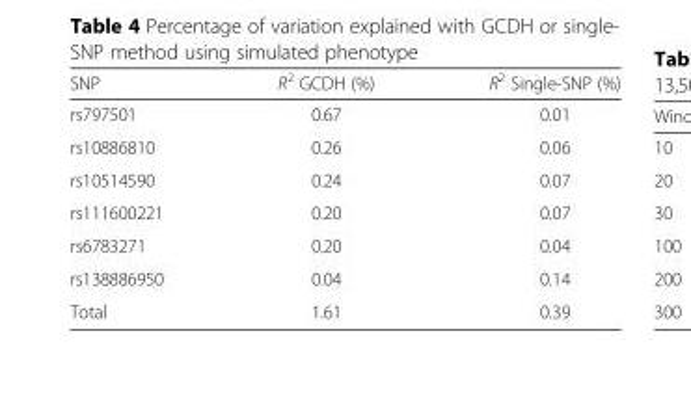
<table><thead><tr><td>SNP</td><td>R<sup>2</sup> GCDH (%)</td><td>R<sup>2</sup> Single-SNP (%)</td></tr></thead><tbody><tr><td>rs797501</td><td>0.67</td><td>0.01</td></tr><tr><td>rs10886810</td><td>0.26</td><td>0.06</td></tr><tr><td>rs10514590</td><td>0.24</td><td>0.07</td></tr><tr><td>rs111600221</td><td>0.20</td><td>0.07</td></tr><tr><td>rs6783271</td><td>0.20</td><td>0.04</td></tr><tr><td>rs138886950</td><td>0.04</td><td>0.14</td></tr><tr><td>Total</td><td>1.61</td><td>0.39</td></tr></tbody></table>